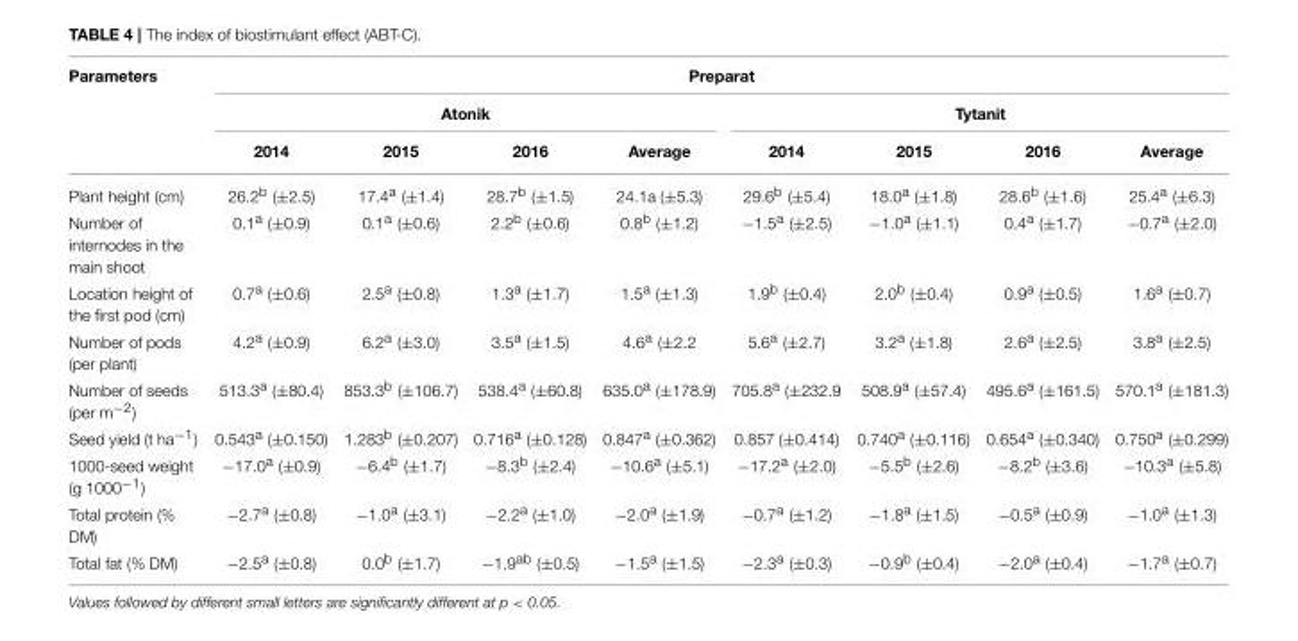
<table><thead><tr><td rowspan="3">Parameters</td><td colspan="8">Preparat</td></tr><tr><td colspan="4">Atonik</td><td colspan="4">Tytanit</td></tr><tr><td>2014</td><td>2015</td><td>2016</td><td>Average</td><td>2014</td><td>2015</td><td>2016</td><td>Average</td></tr></thead><tbody><tr><td>Plant height (cm)</td><td>26.2<sup>b</sup> (±2.5)</td><td>17.4<sup>a</sup> (±1.4)</td><td>28.7<sup>b</sup> (±1.5)</td><td>24.1a (±5.3)</td><td>29.6<sup>b</sup> (±5.4)</td><td>18.0<sup>a</sup> (±1.8)</td><td>28.6<sup>b</sup> (±1.6)</td><td>25.4<sup>a</sup> (±6.3)</td></tr><tr><td>Number of internodes in the main shoot</td><td>0.1<sup>a</sup> (±0.9)</td><td>0.1<sup>a</sup> (±0.6)</td><td>2.2<sup>b</sup> (±0.6)</td><td>0.8<sup>b</sup> (±1.2)</td><td>−1.5<sup>a</sup> (±2.5)</td><td>−1.0<sup>a</sup> (±1.1)</td><td>0.4<sup>a</sup> (±1.7)</td><td>−0.7<sup>a</sup> (±2.0)</td></tr><tr><td>Location height of the first pod (cm)</td><td>0.7<sup>a</sup> (±0.6)</td><td>2.5<sup>a</sup> (±0.8)</td><td>1.3<sup>a</sup> (±1.7)</td><td>1.5<sup>a</sup> (±1.3)</td><td>1.9<sup>b</sup> (±0.4)</td><td>2.0<sup>b</sup> (±0.4)</td><td>0.9<sup>a</sup> (±0.5)</td><td>1.6<sup>a</sup> (±0.7)</td></tr><tr><td>Number of pods (per plant)</td><td>4.2<sup>a</sup> (±0.9)</td><td>6.2<sup>a</sup> (±3.0)</td><td>3.5<sup>a</sup> (±1.5)</td><td>4.6<sup>a</sup> (±2.2</td><td>5.6<sup>a</sup> (±2.7)</td><td>3.2<sup>a</sup> (±1.8)</td><td>2.6<sup>a</sup> (±2.5)</td><td>3.8<sup>a</sup> (±2.5)</td></tr><tr><td>Number of seeds (per m<sup>−2</sup>)</td><td>513.3<sup>a</sup> (±80.4)</td><td>853.3<sup>b</sup> (±106.7)</td><td>538.4<sup>a</sup> (±60.8)</td><td>635.0<sup>a</sup> (±178.9)</td><td>705.8<sup>a</sup> (±232.9</td><td>508.9<sup>a</sup> (±57.4)</td><td>495.6<sup>a</sup> (±161.5)</td><td>570.1<sup>a</sup> (±181.3)</td></tr><tr><td>Seed yield (t ha<sup>−1</sup>)</td><td>0.543<sup>a</sup> (±0.150)</td><td>1.283<sup>b</sup> (±0.207)</td><td>0.716<sup>a</sup> (±0.128)</td><td>0.847<sup>a</sup> (±0.362)</td><td>0.857 (±0.414)</td><td>0.740<sup>a</sup> (±0.116)</td><td>0.654<sup>a</sup> (±0.340)</td><td>0.750<sup>a</sup> (±0.299)</td></tr><tr><td>1000-seed weight (g 1000<sup>−1</sup>)</td><td>−17.0<sup>a</sup> (±0.9)</td><td>−6.4<sup>b</sup> (±1.7)</td><td>−8.3<sup>b</sup> (±2.4)</td><td>−10.6<sup>a</sup> (±5.1)</td><td>−17.2<sup>a</sup> (±2.0)</td><td>−5.5<sup>b</sup> (±2.6)</td><td>−8.2<sup>b</sup> (±3.6)</td><td>−10.3<sup>a</sup> (±5.8)</td></tr><tr><td>Total protein (% DM)</td><td>−2.7<sup>a</sup> (±0.8)</td><td>−1.0<sup>a</sup> (±3.1)</td><td>−2.2<sup>a</sup> (±1.0)</td><td>−2.0<sup>a</sup> (±1.9)</td><td>−0.7<sup>a</sup> (±1.2)</td><td>−1.8<sup>a</sup> (±1.5)</td><td>−0.5<sup>a</sup> (±0.9)</td><td>−1.0<sup>a</sup> (±1.3)</td></tr><tr><td>Total fat (% DM)</td><td>−2.5<sup>a</sup> (±0.8)</td><td>0.0<sup>b</sup> (±1.7)</td><td>−1.9<sup>ab</sup> (±0.5)</td><td>−1.5<sup>a</sup> (±1.5)</td><td>−2.3<sup>a</sup> (±0.3)</td><td>−0.9<sup>b</sup> (±0.4)</td><td>−2.0<sup>a</sup> (±0.4)</td><td>−1.7<sup>a</sup> (±0.7)</td></tr></tbody></table>